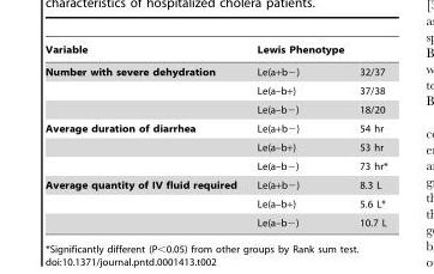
<table><thead><tr><td>Variable</td><td>Lewis Phenotype</td><td></td></tr></thead><tbody><tr><td rowspan="3">Number with severe dehydration</td><td>Le(a+b−)</td><td>32/37</td></tr><tr><td>Le(a–b+)</td><td>37/38</td></tr><tr><td>Le(a–b−)</td><td>18/20</td></tr><tr><td rowspan="3">Average duration of diarrhea</td><td>Le(a+b−)</td><td>54 hr</td></tr><tr><td>Le(a–b+)</td><td>53 hr</td></tr><tr><td>Le(a–b−)</td><td>73 hr*</td></tr><tr><td rowspan="3">Average quantity of IV fluid required</td><td>Le(a+b−)</td><td>8.3 L</td></tr><tr><td>Le(a–b+)</td><td>5.6 L*</td></tr><tr><td>Le(a–b−)</td><td>10.7 L</td></tr></tbody></table>